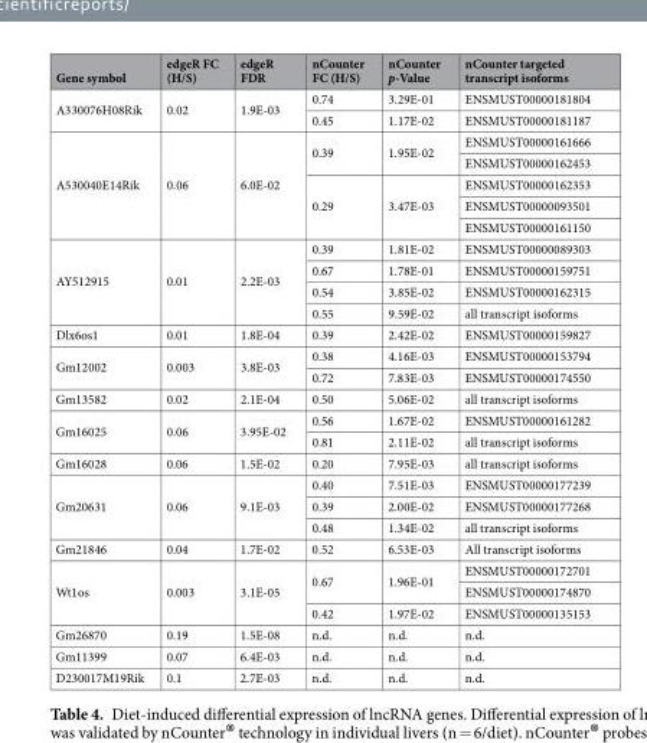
<table><thead><tr><td>Gene symbol</td><td>edgeR FC (H/S)</td><td>edgeR FDR</td><td>nCounter FC (H/S)</td><td>nCounter p-Value</td><td>nCounter targeted transcript isoforms</td></tr></thead><tbody><tr><td rowspan="2">A330076H08Rik</td><td rowspan="2">0.02</td><td rowspan="2">1.9E-03</td><td>0.74</td><td>3.29E-01</td><td>ENSMUST00000181804</td></tr><tr><td>0.45</td><td>1.17E-02</td><td>ENSMUST00000181187</td></tr><tr><td rowspan="5">A530040E14Rik</td><td rowspan="5">0.06</td><td rowspan="5">6.0E-02</td><td rowspan="2">0.39</td><td rowspan="2">1.95E-02</td><td>ENSMUST00000161666</td></tr><tr><td>ENSMUST00000162453</td></tr><tr><td rowspan="3">0.29</td><td rowspan="3">3.47E-03</td><td>ENSMUST00000162353</td></tr><tr><td>ENSMUST00000093501</td></tr><tr><td>ENSMUST00000161150</td></tr><tr><td rowspan="4">AY512915</td><td rowspan="4">0.01</td><td rowspan="4">2.2E-03</td><td>0.39</td><td>1.81E-02</td><td>ENSMUST00000089303</td></tr><tr><td>0.67</td><td>1.78E-01</td><td>ENSMUST00000159751</td></tr><tr><td>0.54</td><td>3.85E-02</td><td>ENSMUST00000162315</td></tr><tr><td>0.55</td><td>9.59E-02</td><td>all transcript isoforms</td></tr><tr><td>Dlx6os1</td><td>0.01</td><td>1.8E-04</td><td>0.39</td><td>2.42E-02</td><td>ENSMUST00000159827</td></tr><tr><td rowspan="2">Gm12002</td><td rowspan="2">0.003</td><td rowspan="2">3.8E-03</td><td>0.38</td><td>4.16E-03</td><td>ENSMUST00000153794</td></tr><tr><td>0.72</td><td>7.83E-03</td><td>ENSMUST00000174550</td></tr><tr><td>Gm13582</td><td>0.02</td><td>2.1E-04</td><td>0.50</td><td>5.06E-02</td><td>all transcript isoforms</td></tr><tr><td rowspan="2">Gm16025</td><td rowspan="2">0.06</td><td rowspan="2">3.95E-02</td><td>0.56</td><td>1.67E-02</td><td>ENSMUST00000161282</td></tr><tr><td>0.81</td><td>2.11E-02</td><td>all transcript isoforms</td></tr><tr><td>Gm16028</td><td>0.06</td><td>1.5E-02</td><td>0.20</td><td>7.95E-03</td><td>all transcript isoforms</td></tr><tr><td rowspan="3">Gm20631</td><td rowspan="3">0.06</td><td rowspan="3">9.1E-03</td><td>0.40</td><td>7.51E-03</td><td>ENSMUST00000177239</td></tr><tr><td>0.39</td><td>2.00E-02</td><td>ENSMUST00000177268</td></tr><tr><td>0.48</td><td>1.34E-02</td><td>all transcript isoforms</td></tr><tr><td>Gm21846</td><td>0.04</td><td>1.7E-02</td><td>0.52</td><td>6.53E-03</td><td>All transcript isoforms</td></tr><tr><td rowspan="3">Wt1os</td><td rowspan="3">0.003</td><td rowspan="3">3.1E-05</td><td rowspan="2">0.67</td><td rowspan="2">1.96E-01</td><td>ENSMUST00000172701</td></tr><tr><td>ENSMUST00000174870</td></tr><tr><td>0.42</td><td>1.97E-02</td><td>ENSMUST00000135153</td></tr><tr><td>Gm26870</td><td>0.19</td><td>1.5E-08</td><td>n.d.</td><td>n.d.</td><td>n.d.</td></tr><tr><td>Gm11399</td><td>0.07</td><td>6.4E-03</td><td>n.d.</td><td>n.d.</td><td>n.d.</td></tr><tr><td>D230017M19Rik</td><td>0.1</td><td>2.7E-03</td><td>n.d.</td><td>n.d.</td><td>n.d.</td></tr></tbody></table>